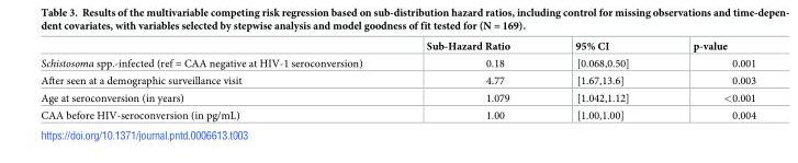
<table><thead><tr><td></td><td>Sub-Hazard Ratio</td><td>95% CI</td><td>p-value</td></tr></thead><tbody><tr><td>Schistosoma spp.-infected (ref = CAA negative at HIV-1 seroconversion)</td><td>0.18</td><td>[0.068,0.50]</td><td>0.001</td></tr><tr><td>After seen at a demographic surveillance visit</td><td>4.77</td><td>[1.67,13.6]</td><td>0.003</td></tr><tr><td>Age at seroconversion (in years)</td><td>1.079</td><td>[1.042,1.12]</td><td>&lt;0.001</td></tr><tr><td>CAA before HIV-seroconversion (in pg/mL)</td><td>1.00</td><td>[1.00,1.00]</td><td>0.004</td></tr></tbody></table>